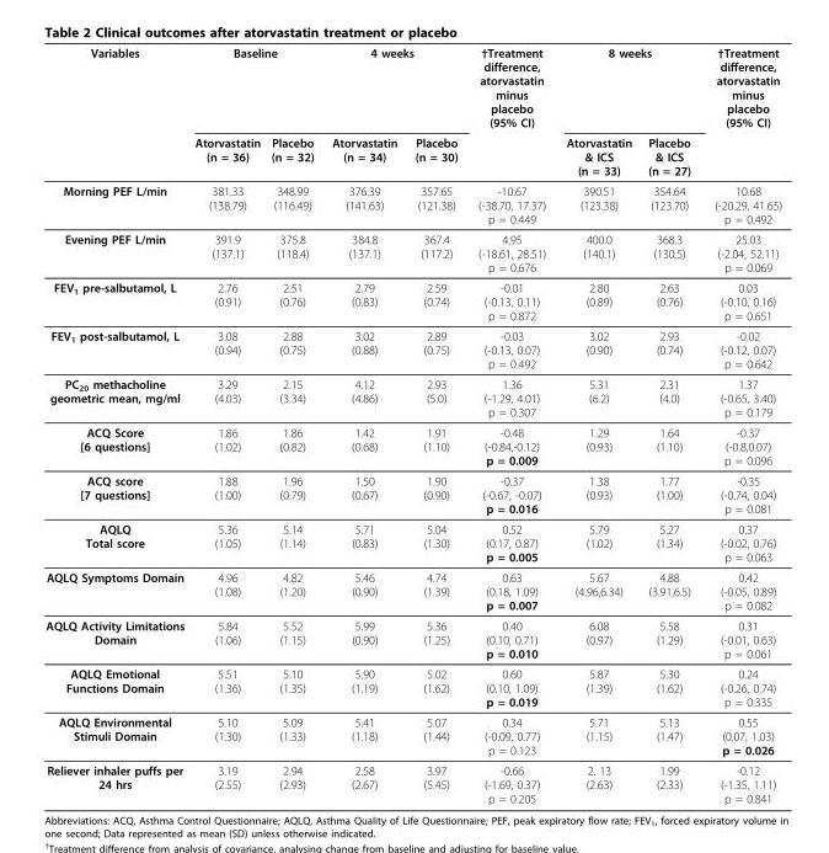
<table><thead><tr><td rowspan="2">Variables</td><td colspan="2">Baseline</td><td colspan="2">4 weeks</td><td rowspan="2">†Treatment difference, atorvastatin minus placebo (95% CI)</td><td colspan="2">8 weeks</td><td rowspan="2">†Treatment difference, atorvastatin minus placebo (95% CI)</td></tr><tr><td>Atorvastatin (n = 36)</td><td>Placebo (n = 32)</td><td>Atorvastatin (n = 34)</td><td>Placebo (n = 30)</td><td>Atorvastatin &amp; ICS (n = 33)</td><td>Placebo &amp; ICS (n = 27)</td></tr></thead><tbody><tr><td>Morning PEF L/min</td><td>381.33 (138.79)</td><td>348.99 (116.49)</td><td>376.39 (141.63)</td><td>357.65 (121.38)</td><td>-10.67 (-38.70, 17.37) p = 0.449</td><td>390.51 (123.38)</td><td>354.64 (123.70)</td><td>10.68 (-20.29, 41.65) p = 0.492</td></tr><tr><td>Evening PEF L/min</td><td>391.9 (137.1)</td><td>375.8 (118.4)</td><td>384.8 (137.1)</td><td>367.4 (117.2)</td><td>4.95 (-18.61, 28.51) p = 0.676</td><td>400.0 (140.1)</td><td>368.3 (130.5)</td><td>25.03 (-2.04, 52.11) p = 0.069</td></tr><tr><td>FEV<sub>1</sub> pre-salbutamol, L</td><td>2.76 (0.91)</td><td>2.51 (0.76)</td><td>2.79 (0.83)</td><td>2.59 (0.74)</td><td>-0.01 (-0.13, 0.11) p = 0.872</td><td>2.80 (0.89)</td><td>2.63 (0.76)</td><td>0.03 (-0.10, 0.16) p = 0.651</td></tr><tr><td>FEV<sub>1</sub> post-salbutamol, L</td><td>3.08 (0.94)</td><td>2.88 (0.75)</td><td>3.02 (0.88)</td><td>2.89 (0.75)</td><td>-0.03 (-0.13, 0.07) p = 0.492</td><td>3.02 (0.90)</td><td>2.93 (0.74)</td><td>-0.02 (-0.12, 0.07) p = 0.642</td></tr><tr><td>PC<sub>20</sub> methacholine geometric mean, mg/ml</td><td>3.29 (4.03)</td><td>2.15 (3.34)</td><td>4.12 (4.86)</td><td>2.93 (5.0)</td><td>1.36 (-1.29, 4.01) p = 0.307</td><td>5.31 (6.2)</td><td>2.31 (4.0)</td><td>1.37 (-0.65, 3.40) p = 0.179</td></tr><tr><td>ACQ Score [6 questions]</td><td>1.86 (1.02)</td><td>1.86 (0.82)</td><td>1.42 (0.68)</td><td>1.91 (1.10)</td><td>-0.48 (-0.84,-0.12) p = 0.009</td><td>1.29 (0.93)</td><td>1.64 (1.10)</td><td>-0.37 (-0.8,0.07) p = 0.096</td></tr><tr><td>ACQ score [7 questions]</td><td>1.88 (1.00)</td><td>1.96 (0.79)</td><td>1.50 (0.67)</td><td>1.90 (0.90)</td><td>-0.37 (-0.67, -0.07) p = 0.016</td><td>1.38 (0.93)</td><td>1.77 (1.00)</td><td>-0.35 (-0.74, 0.04) p = 0.081</td></tr><tr><td>AQLQ Total score</td><td>5.36 (1.05)</td><td>5.14 (1.14)</td><td>5.71 (0.83)</td><td>5.04 (1.30)</td><td>0.52 (0.17, 0.87) p = 0.005</td><td>5.79 (1.02)</td><td>5.27 (1.34)</td><td>0.37 (-0.02, 0.76) p = 0.063</td></tr><tr><td>AQLQ Symptoms Domain</td><td>4.96 (1.08)</td><td>4.82 (1.20)</td><td>5.46 (0.90)</td><td>4.74 (1.39)</td><td>0.63 (0.18, 1.09) p = 0.007</td><td>5.67 (4.96,6.34)</td><td>4.88 (3.91,6.5)</td><td>0.42 (-0.05, 0.89) p = 0.082</td></tr><tr><td>AQLQ Activity Limitations Domain</td><td>5.84 (1.06)</td><td>5.52 (1.15)</td><td>5.99 (0.90)</td><td>5.36 (1.25)</td><td>0.40 (0.10, 0.71) p = 0.010</td><td>6.08 (0.97)</td><td>5.58 (1.29)</td><td>0.31 (-0.01, 0.63) p = 0.061</td></tr><tr><td>AQLQ Emotional Functions Domain</td><td>5.51 (1.36)</td><td>5.10 (1.35)</td><td>5.90 (1.19)</td><td>5.02 (1.62)</td><td>0.60 (0.10, 1.09) p = 0.019</td><td>5.87 (1.39)</td><td>5.30 (1.62)</td><td>0.24 (-0.26, 0.74) p = 0.335</td></tr><tr><td>AQLQ Environmental Stimuli Domain</td><td>5.10 (1.30)</td><td>5.09 (1.33)</td><td>5.41 (1.18)</td><td>5.07 (1.44)</td><td>0.34 (-0.09, 0.77) p = 0.123</td><td>5.71 (1.15)</td><td>5.13 (1.47)</td><td>0.55 (0.07, 1.03) p = 0.026</td></tr><tr><td>Reliever inhaler puffs per 24 hrs</td><td>3.19 (2.55)</td><td>2.94 (2.93)</td><td>2.58 (2.67)</td><td>3.97 (5.45)</td><td>-0.66 (-1.69, 0.37) p = 0.205</td><td>2. 13 (2.63)</td><td>1.99 (2.33)</td><td>-0.12 (-1.35, 1.11) p = 0.841</td></tr></tbody></table>